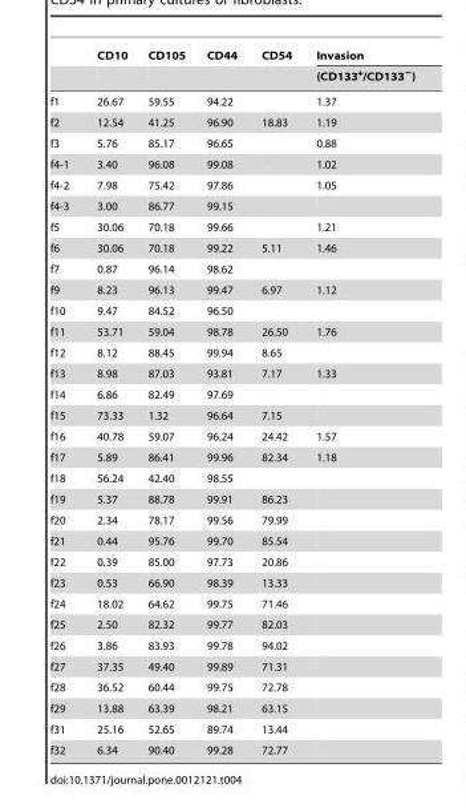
<table><thead><tr><td rowspan="2"></td><td rowspan="2">CD10</td><td rowspan="2">CD105</td><td rowspan="2">CD44</td><td rowspan="2">CD54</td><td rowspan="2">Invasion (CD133<sup>+</sup>/CD133<sup>−</sup>)</td></tr><tr></tr></thead><tbody><tr><td>f1</td><td>26.67</td><td>59.55</td><td>94.22</td><td></td><td>1.37</td></tr><tr><td>f2</td><td>12.54</td><td>41.25</td><td>96.90</td><td>18.83</td><td>1.19</td></tr><tr><td>f3</td><td>5.76</td><td>85.17</td><td>96.65</td><td></td><td>0.88</td></tr><tr><td>f4-1</td><td>3.40</td><td>96.08</td><td>99.08</td><td></td><td>1.02</td></tr><tr><td>f4-2</td><td>7.98</td><td>75.42</td><td>97.86</td><td></td><td>1.05</td></tr><tr><td>f4-3</td><td>3.00</td><td>86.77</td><td>99.15</td><td></td><td></td></tr><tr><td>f5</td><td>30.06</td><td>70.18</td><td>99.66</td><td></td><td>1.21</td></tr><tr><td>f6</td><td>30.06</td><td>70.18</td><td>99.22</td><td>5.11</td><td>1.46</td></tr><tr><td>f7</td><td>0.87</td><td>96.14</td><td>98.62</td><td></td><td></td></tr><tr><td>f9</td><td>8.23</td><td>96.13</td><td>99.47</td><td>6.97</td><td>1.12</td></tr><tr><td>f10</td><td>9.47</td><td>84.52</td><td>96.50</td><td></td><td></td></tr><tr><td>f11</td><td>53.71</td><td>59.04</td><td>98.78</td><td>26.50</td><td>1.76</td></tr><tr><td>f12</td><td>8.12</td><td>88.45</td><td>99.94</td><td>8.65</td><td></td></tr><tr><td>f13</td><td>8.98</td><td>87.03</td><td>93.81</td><td>7.17</td><td>1.33</td></tr><tr><td>f14</td><td>6.86</td><td>82.49</td><td>97.69</td><td></td><td></td></tr><tr><td>f15</td><td>73.33</td><td>1.32</td><td>96.64</td><td>7.15</td><td></td></tr><tr><td>f16</td><td>40.78</td><td>59.07</td><td>96.24</td><td>24.42</td><td>1.57</td></tr><tr><td>f17</td><td>5.89</td><td>86.41</td><td>99.96</td><td>82.34</td><td>1.18</td></tr><tr><td>f18</td><td>56.24</td><td>42.40</td><td>98.55</td><td></td><td></td></tr><tr><td>f19</td><td>5.37</td><td>88.78</td><td>99.91</td><td>86.23</td><td></td></tr><tr><td>f20</td><td>2.34</td><td>78.17</td><td>99.56</td><td>79.99</td><td></td></tr><tr><td>f21</td><td>0.44</td><td>95.76</td><td>99.70</td><td>85.54</td><td></td></tr><tr><td>f22</td><td>0.39</td><td>85.00</td><td>97.73</td><td>20.86</td><td></td></tr><tr><td>f23</td><td>0.53</td><td>66.90</td><td>98.39</td><td>13.33</td><td></td></tr><tr><td>f24</td><td>18.02</td><td>64.62</td><td>99.75</td><td>71.46</td><td></td></tr><tr><td>f25</td><td>2.50</td><td>82.32</td><td>99.77</td><td>82.03</td><td></td></tr><tr><td>f26</td><td>3.86</td><td>83.93</td><td>99.78</td><td>94.02</td><td></td></tr><tr><td>f27</td><td>37.35</td><td>49.40</td><td>99.89</td><td>71.31</td><td></td></tr><tr><td>f28</td><td>36.52</td><td>60.44</td><td>99.75</td><td>72.78</td><td></td></tr><tr><td>f29</td><td>13.88</td><td>63.39</td><td>98.21</td><td>63.15</td><td></td></tr><tr><td>f31</td><td>25.16</td><td>52.65</td><td>89.74</td><td>13.44</td><td></td></tr><tr><td>f32</td><td>6.34</td><td>90.40</td><td>99.28</td><td>72.77</td><td></td></tr></tbody></table>